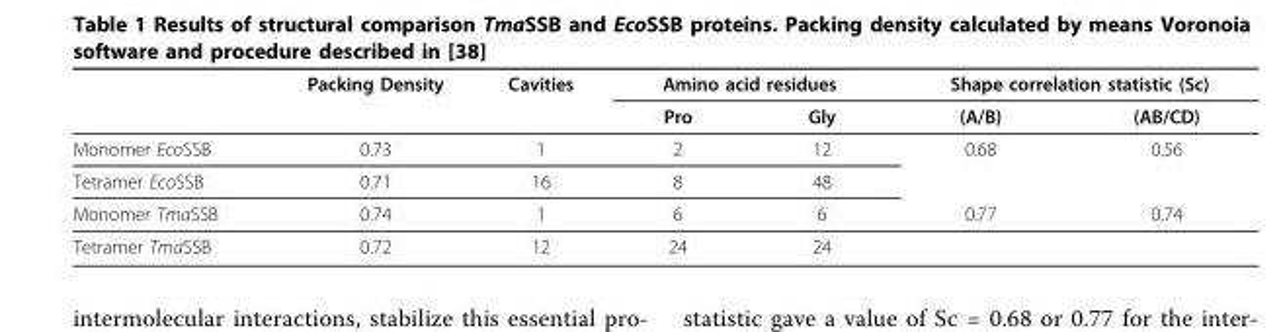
<table><thead><tr><td rowspan="2"></td><td rowspan="2">Packing Density</td><td rowspan="2">Cavities</td><td colspan="2">Amino acid residues</td><td colspan="2">Shape correlation statistic (Sc)</td></tr><tr><td>Pro</td><td>Gly</td><td>(A/B)</td><td>(AB/CD)</td></tr></thead><tbody><tr><td>Monomer EcoSSB</td><td>0.73</td><td>1</td><td>2</td><td>12</td><td>0.68</td><td>0.56</td></tr><tr><td>Tetramer EcoSSB</td><td>0.71</td><td>16</td><td>8</td><td>48</td><td></td><td></td></tr><tr><td>Monomer TmaSSB</td><td>0.74</td><td>1</td><td>6</td><td>6</td><td>0.77</td><td>0.74</td></tr><tr><td>Tetramer TmaSSB</td><td>0.72</td><td>12</td><td>24</td><td>24</td><td></td><td></td></tr></tbody></table>